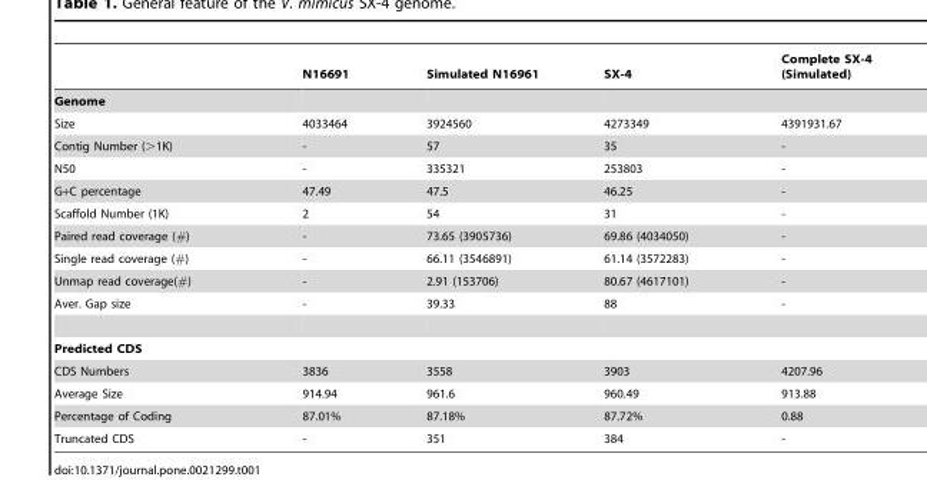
<table><thead><tr><td></td><td>N16691</td><td>Simulated N16961</td><td>SX-4</td><td>Complete SX-4 (Simulated)</td></tr></thead><tbody><tr><td colspan="5">Genome</td></tr><tr><td>Size</td><td>4033464</td><td>3924560</td><td>4273349</td><td>4391931.67</td></tr><tr><td>Contig Number (&gt;1K)</td><td>-</td><td>57</td><td>35</td><td>-</td></tr><tr><td>N50</td><td>-</td><td>335321</td><td>253803</td><td>-</td></tr><tr><td>G+C percentage</td><td>47.49</td><td>47.5</td><td>46.25</td><td>-</td></tr><tr><td>Scaffold Number (1K)</td><td>2</td><td>54</td><td>31</td><td>-</td></tr><tr><td>Paired read coverage (#)</td><td>-</td><td>73.65 (3905736)</td><td>69.86 (4034050)</td><td>-</td></tr><tr><td>Single read coverage (#)</td><td>-</td><td>66.11 (3546891)</td><td>61.14 (3572283)</td><td>-</td></tr><tr><td>Unmap read coverage(#)</td><td>-</td><td>2.91 (153706)</td><td>80.67 (4617101)</td><td>-</td></tr><tr><td>Aver. Gap size</td><td>-</td><td>39.33</td><td>88</td><td>-</td></tr><tr><td colspan="5">Predicted CDS</td></tr><tr><td>CDS Numbers</td><td>3836</td><td>3558</td><td>3903</td><td>4207.96</td></tr><tr><td>Average Size</td><td>914.94</td><td>961.6</td><td>960.49</td><td>913.88</td></tr><tr><td>Percentage of Coding</td><td>87.01%</td><td>87.18%</td><td>87.72%</td><td>0.88</td></tr><tr><td>Truncated CDS</td><td>-</td><td>351</td><td>384</td><td>-</td></tr></tbody></table>